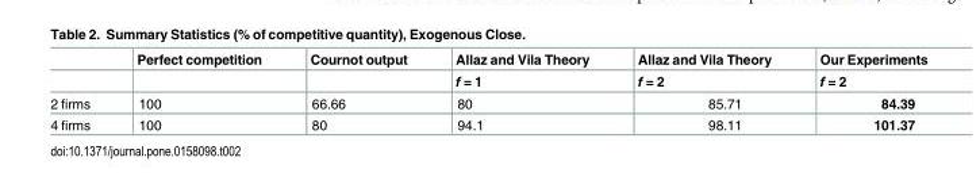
<table><thead><tr><td rowspan="2"></td><td rowspan="2">Perfect competition</td><td rowspan="2">Cournot output</td><td rowspan="2">Allaz and Vila Theory f = 1</td><td rowspan="2">Allaz and Vila Theory f = 2</td><td rowspan="2">Our Experiments f = 2</td></tr><tr></tr></thead><tbody><tr><td>2 firms</td><td>100</td><td>66.66</td><td>80</td><td>85.71</td><td>84.39</td></tr><tr><td>4 firms</td><td>100</td><td>80</td><td>94.1</td><td>98.11</td><td>101.37</td></tr></tbody></table>